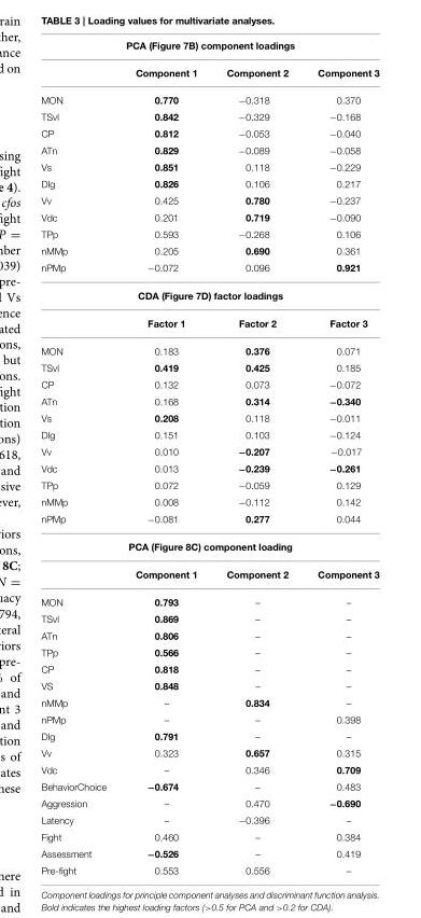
<table><thead><tr><td colspan="4">PCA (Figure 7B) component loadings</td></tr><tr><td></td><td>Component 1</td><td>Component 2</td><td>Component 3</td></tr></thead><tbody><tr><td>MON</td><td>0.770</td><td>−0.318</td><td>0.370</td></tr><tr><td>TSvl</td><td>0.842</td><td>−0.329</td><td>−0.168</td></tr><tr><td>CP</td><td>0.812</td><td>−0.053</td><td>−0.040</td></tr><tr><td>ATn</td><td>0.829</td><td>−0.089</td><td>−0.058</td></tr><tr><td>Vs</td><td>0.851</td><td>0.118</td><td>−0.229</td></tr><tr><td>Dlg</td><td>0.826</td><td>0.106</td><td>0.217</td></tr><tr><td>Vv</td><td>0.425</td><td>0.780</td><td>−0.237</td></tr><tr><td>Vdc</td><td>0.201</td><td>0.719</td><td>−0.090</td></tr><tr><td>TPp</td><td>0.593</td><td>−0.268</td><td>0.106</td></tr><tr><td>nMMp</td><td>0.205</td><td>0.690</td><td>0.361</td></tr><tr><td>nPMp</td><td>−0.072</td><td>0.096</td><td>0.921</td></tr><tr><td colspan="4">CDA (Figure 7D) factor loadings</td></tr><tr><td></td><td>Factor 1</td><td>Factor 2</td><td>Factor 3</td></tr><tr><td>MON</td><td>0.183</td><td>0.376</td><td>0.071</td></tr><tr><td>TSvl</td><td>0.419</td><td>0.425</td><td>0.185</td></tr><tr><td>CP</td><td>0.132</td><td>0.073</td><td>−0.072</td></tr><tr><td>ATn</td><td>0.168</td><td>0.314</td><td>−0.340</td></tr><tr><td>Vs</td><td>0.208</td><td>0.118</td><td>−0.011</td></tr><tr><td>Dlg</td><td>0.151</td><td>0.103</td><td>−0.124</td></tr><tr><td>Vv</td><td>0.010</td><td>−0.207</td><td>−0.017</td></tr><tr><td>Vdc</td><td>0.013</td><td>−0.239</td><td>−0.261</td></tr><tr><td>TPp</td><td>0.072</td><td>−0.059</td><td>0.129</td></tr><tr><td>nMMp</td><td>0.008</td><td>−0.112</td><td>0.142</td></tr><tr><td>nPMp</td><td>−0.081</td><td>0.277</td><td>0.044</td></tr><tr><td colspan="4">PCA (Figure 8C) component loading</td></tr><tr><td></td><td>Component 1</td><td>Component 2</td><td>Component 3</td></tr><tr><td>MON</td><td>0.793</td><td>–</td><td>–</td></tr><tr><td>TSvl</td><td>0.869</td><td>–</td><td>–</td></tr><tr><td>ATn</td><td>0.806</td><td>–</td><td>–</td></tr><tr><td>TPp</td><td>0.566</td><td>–</td><td>–</td></tr><tr><td>CP</td><td>0.818</td><td>–</td><td>–</td></tr><tr><td>VS</td><td>0.848</td><td>–</td><td>–</td></tr><tr><td>nMMp</td><td>–</td><td>0.834</td><td>–</td></tr><tr><td>nPMp</td><td>–</td><td>–</td><td>0.398</td></tr><tr><td>Dlg</td><td>0.791</td><td>–</td><td>–</td></tr><tr><td>Vv</td><td>0.323</td><td>0.657</td><td>0.315</td></tr><tr><td>Vdc</td><td>–</td><td>0.346</td><td>0.709</td></tr><tr><td>BehaviorChoice</td><td>−0.674</td><td>–</td><td>0.483</td></tr><tr><td>Aggression</td><td>–</td><td>0.470</td><td>−0.690</td></tr><tr><td>Latency</td><td>–</td><td>−0.396</td><td>–</td></tr><tr><td>Fight</td><td>0.460</td><td>–</td><td>0.384</td></tr><tr><td>Assessment</td><td>−0.526</td><td>–</td><td>0.419</td></tr><tr><td>Pre-fight</td><td>0.553</td><td>0.556</td><td>–</td></tr></tbody></table>